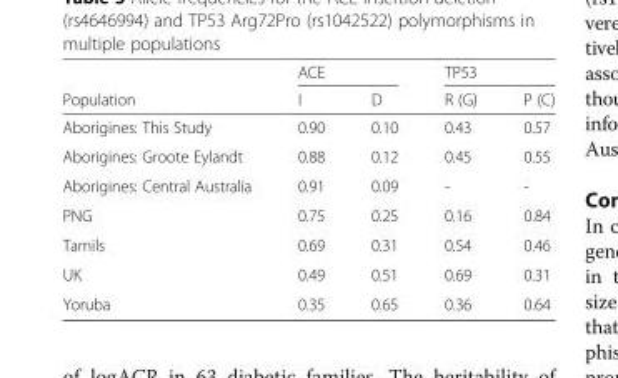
<table><thead><tr><td rowspan="2">Population</td><td colspan="2">ACE</td><td colspan="2">TP53</td></tr><tr><td>I</td><td>D</td><td>R (G)</td><td>P (C)</td></tr></thead><tbody><tr><td>Aborigines: This Study</td><td>0.90</td><td>0.10</td><td>0.43</td><td>0.57</td></tr><tr><td>Aborigines: Groote Eylandt</td><td>0.88</td><td>0.12</td><td>0.45</td><td>0.55</td></tr><tr><td>Aborigines: Central Australia</td><td>0.91</td><td>0.09</td><td>-</td><td>-</td></tr><tr><td>PNG</td><td>0.75</td><td>0.25</td><td>0.16</td><td>0.84</td></tr><tr><td>Tamils</td><td>0.69</td><td>0.31</td><td>0.54</td><td>0.46</td></tr><tr><td>UK</td><td>0.49</td><td>0.51</td><td>0.69</td><td>0.31</td></tr><tr><td>Yoruba</td><td>0.35</td><td>0.65</td><td>0.36</td><td>0.64</td></tr></tbody></table>